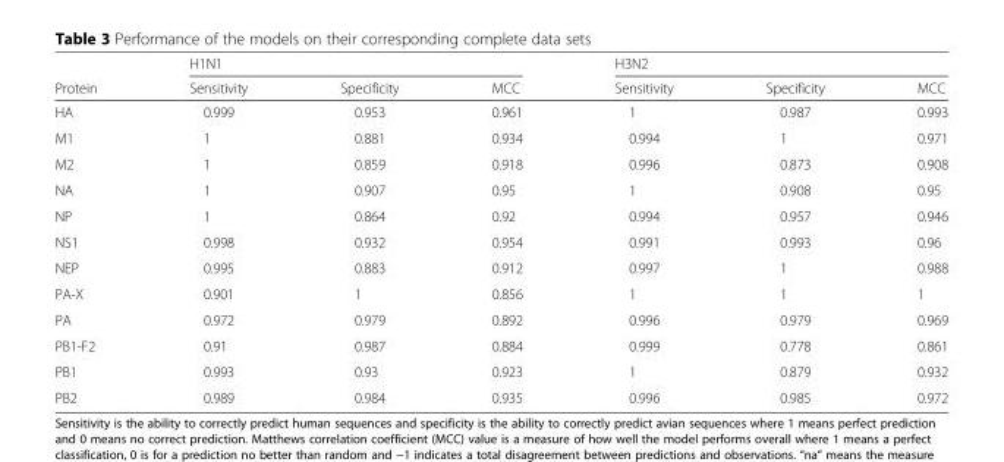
<table><thead><tr><td rowspan="2">Protein</td><td colspan="3">H1N1</td><td colspan="3">H3N2</td></tr><tr><td>Sensitivity</td><td>Specificity</td><td>MCC</td><td>Sensitivity</td><td>Specificity</td><td>MCC</td></tr></thead><tbody><tr><td>HA</td><td>0.999</td><td>0.953</td><td>0.961</td><td>1</td><td>0.987</td><td>0.993</td></tr><tr><td>M1</td><td>1</td><td>0.881</td><td>0.934</td><td>0.994</td><td>1</td><td>0.971</td></tr><tr><td>M2</td><td>1</td><td>0.859</td><td>0.918</td><td>0.996</td><td>0.873</td><td>0.908</td></tr><tr><td>NA</td><td>1</td><td>0.907</td><td>0.95</td><td>1</td><td>0.908</td><td>0.95</td></tr><tr><td>NP</td><td>1</td><td>0.864</td><td>0.92</td><td>0.994</td><td>0.957</td><td>0.946</td></tr><tr><td>NS1</td><td>0.998</td><td>0.932</td><td>0.954</td><td>0.991</td><td>0.993</td><td>0.96</td></tr><tr><td>NEP</td><td>0.995</td><td>0.883</td><td>0.912</td><td>0.997</td><td>1</td><td>0.988</td></tr><tr><td>PA-X</td><td>0.901</td><td>1</td><td>0.856</td><td>1</td><td>1</td><td>1</td></tr><tr><td>PA</td><td>0.972</td><td>0.979</td><td>0.892</td><td>0.996</td><td>0.979</td><td>0.969</td></tr><tr><td>PB1-F2</td><td>0.91</td><td>0.987</td><td>0.884</td><td>0.999</td><td>0.778</td><td>0.861</td></tr><tr><td>PB1</td><td>0.993</td><td>0.93</td><td>0.923</td><td>1</td><td>0.879</td><td>0.932</td></tr><tr><td>PB2</td><td>0.989</td><td>0.984</td><td>0.935</td><td>0.996</td><td>0.985</td><td>0.972</td></tr></tbody></table>